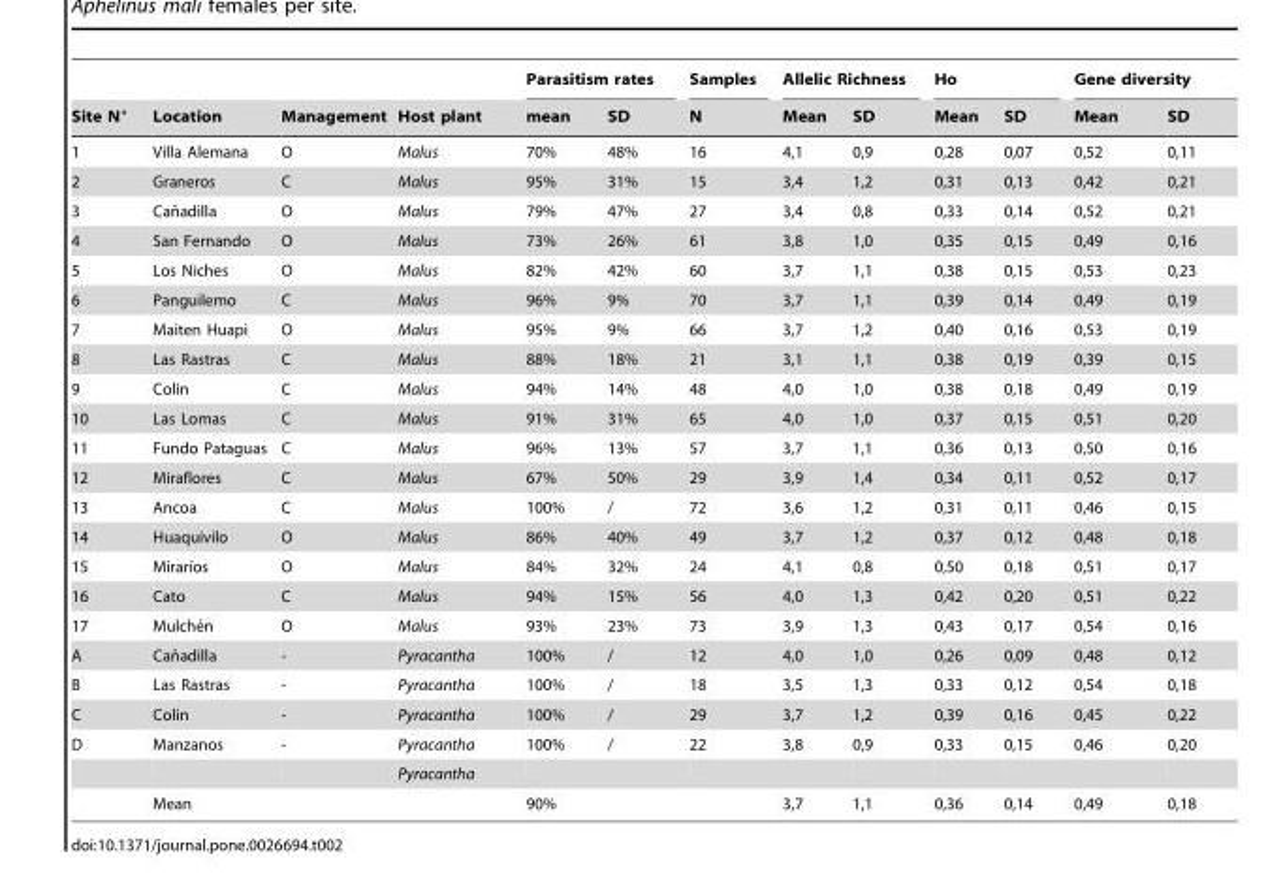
<table><thead><tr><td rowspan="2">Site N°</td><td rowspan="2">Location</td><td rowspan="2">Management</td><td rowspan="2">Host plant</td><td colspan="2">Parasitism rates</td><td rowspan="2">Samples N</td><td colspan="2">Allelic Richness</td><td colspan="2">Ho</td><td colspan="2">Gene diversity</td></tr><tr><td>mean</td><td>SD</td><td>Mean</td><td>SD</td><td>Mean</td><td>SD</td><td>Mean</td><td>SD</td></tr></thead><tbody><tr><td>1</td><td>Villa Alemana</td><td>O</td><td>Malus</td><td>70%</td><td>48%</td><td>16</td><td>4,1</td><td>0,9</td><td>0,28</td><td>0,07</td><td>0,52</td><td>0,11</td></tr><tr><td>2</td><td>Graneros</td><td>C</td><td>Malus</td><td>95%</td><td>31%</td><td>15</td><td>3,4</td><td>1,2</td><td>0,31</td><td>0,13</td><td>0,42</td><td>0,21</td></tr><tr><td>3</td><td>Can˜adilla</td><td>O</td><td>Malus</td><td>79%</td><td>47%</td><td>27</td><td>3,4</td><td>0,8</td><td>0,33</td><td>0,14</td><td>0,52</td><td>0,21</td></tr><tr><td>4</td><td>San Fernando</td><td>O</td><td>Malus</td><td>73%</td><td>26%</td><td>61</td><td>3,8</td><td>1,0</td><td>0,35</td><td>0,15</td><td>0,49</td><td>0,16</td></tr><tr><td>5</td><td>Los Niches</td><td>O</td><td>Malus</td><td>82%</td><td>42%</td><td>60</td><td>3,7</td><td>1,1</td><td>0,38</td><td>0,15</td><td>0,53</td><td>0,23</td></tr><tr><td>6</td><td>Panguilemo</td><td>C</td><td>Malus</td><td>96%</td><td>9%</td><td>70</td><td>3,7</td><td>1,1</td><td>0,39</td><td>0,14</td><td>0,49</td><td>0,19</td></tr><tr><td>7</td><td>Maiten Huapi</td><td>O</td><td>Malus</td><td>95%</td><td>9%</td><td>66</td><td>3,7</td><td>1,2</td><td>0,40</td><td>0,16</td><td>0,53</td><td>0,19</td></tr><tr><td>8</td><td>Las Rastras</td><td>C</td><td>Malus</td><td>88%</td><td>18%</td><td>21</td><td>3,1</td><td>1,1</td><td>0,38</td><td>0,19</td><td>0,39</td><td>0,15</td></tr><tr><td>9</td><td>Colin</td><td>C</td><td>Malus</td><td>94%</td><td>14%</td><td>48</td><td>4,0</td><td>1,0</td><td>0,38</td><td>0,18</td><td>0,49</td><td>0,19</td></tr><tr><td>10</td><td>Las Lomas</td><td>C</td><td>Malus</td><td>91%</td><td>31%</td><td>65</td><td>4,0</td><td>1,0</td><td>0,37</td><td>0,15</td><td>0,51</td><td>0,20</td></tr><tr><td>11</td><td>Fundo Pataguas</td><td>C</td><td>Malus</td><td>96%</td><td>13%</td><td>57</td><td>3,7</td><td>1,1</td><td>0,36</td><td>0,13</td><td>0,50</td><td>0,16</td></tr><tr><td>12</td><td>Miraflores</td><td>C</td><td>Malus</td><td>67%</td><td>50%</td><td>29</td><td>3,9</td><td>1,4</td><td>0,34</td><td>0,11</td><td>0,52</td><td>0,17</td></tr><tr><td>13</td><td>Ancoa</td><td>C</td><td>Malus</td><td>100%</td><td>/</td><td>72</td><td>3,6</td><td>1,2</td><td>0,31</td><td>0,11</td><td>0,46</td><td>0,15</td></tr><tr><td>14</td><td>Huaquivilo</td><td>O</td><td>Malus</td><td>86%</td><td>40%</td><td>49</td><td>3,7</td><td>1,2</td><td>0,37</td><td>0,12</td><td>0,48</td><td>0,18</td></tr><tr><td>15</td><td>Mirarı´os</td><td>O</td><td>Malus</td><td>84%</td><td>32%</td><td>24</td><td>4,1</td><td>0,8</td><td>0,50</td><td>0,18</td><td>0,51</td><td>0,17</td></tr><tr><td>16</td><td>Cato</td><td>C</td><td>Malus</td><td>94%</td><td>15%</td><td>56</td><td>4,0</td><td>1,3</td><td>0,42</td><td>0,20</td><td>0,51</td><td>0,22</td></tr><tr><td>17</td><td>Mulche´n</td><td>O</td><td>Malus</td><td>93%</td><td>23%</td><td>73</td><td>3,9</td><td>1,3</td><td>0,43</td><td>0,17</td><td>0,54</td><td>0,16</td></tr><tr><td>A</td><td>Can˜adilla</td><td>-</td><td>Pyracantha</td><td>100%</td><td>/</td><td>12</td><td>4,0</td><td>1,0</td><td>0,26</td><td>0,09</td><td>0,48</td><td>0,12</td></tr><tr><td>B</td><td>Las Rastras</td><td>-</td><td>Pyracantha</td><td>100%</td><td>/</td><td>18</td><td>3,5</td><td>1,3</td><td>0,33</td><td>0,12</td><td>0,54</td><td>0,18</td></tr><tr><td>C</td><td>Colin</td><td>-</td><td>Pyracantha</td><td>100%</td><td>/</td><td>29</td><td>3,7</td><td>1,2</td><td>0,39</td><td>0,16</td><td>0,45</td><td>0,22</td></tr><tr><td rowspan="3">D</td><td>Manzanos</td><td>-</td><td>Pyracantha</td><td>100%</td><td>/</td><td>22</td><td>3,8</td><td>0,9</td><td>0,33</td><td>0,15</td><td>0,46</td><td>0,20</td></tr><tr><td></td><td></td><td>Pyracantha</td><td></td><td></td><td></td><td></td><td></td><td></td><td></td><td></td><td></td></tr><tr><td>Mean</td><td></td><td></td><td>90%</td><td></td><td></td><td>3,7</td><td>1,1</td><td>0,36</td><td>0,14</td><td>0,49</td><td>0,18</td></tr></tbody></table>